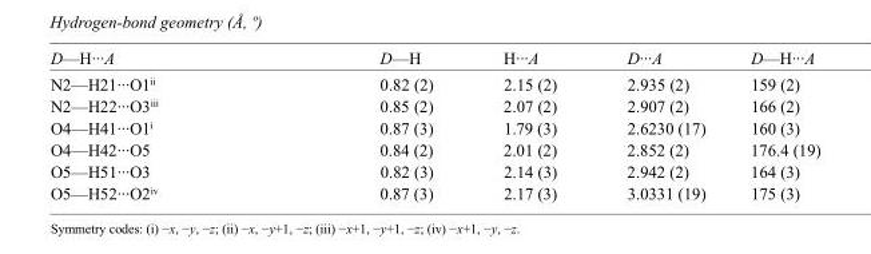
<table><tbody><tr><td>D—H···A</td><td>D—H</td><td>H···A</td><td>D···A</td><td>D—H···A</td></tr><tr><td>N2—H21···O1<sup>ii</sup></td><td>0.82 (2)</td><td>2.15 (2)</td><td>2.935 (2)</td><td>159 (2)</td></tr><tr><td>N2—H22···O3<sup>iii</sup></td><td>0.85 (2)</td><td>2.07 (2)</td><td>2.907 (2)</td><td>166 (2)</td></tr><tr><td>O4—H41···O1<sup>i</sup></td><td>0.87 (3)</td><td>1.79 (3)</td><td>2.6230 (17)</td><td>160 (3)</td></tr><tr><td>O4—H42···O5</td><td>0.84 (2)</td><td>2.01 (2)</td><td>2.852 (2)</td><td>176.4 (19)</td></tr><tr><td>O5—H51···O3</td><td>0.82 (3)</td><td>2.14 (3)</td><td>2.942 (2)</td><td>164 (3)</td></tr><tr><td>O5—H52···O2<sup>iv</sup></td><td>0.87 (3)</td><td>2.17 (3)</td><td>3.0331 (19)</td><td>175 (3)</td></tr></tbody></table>